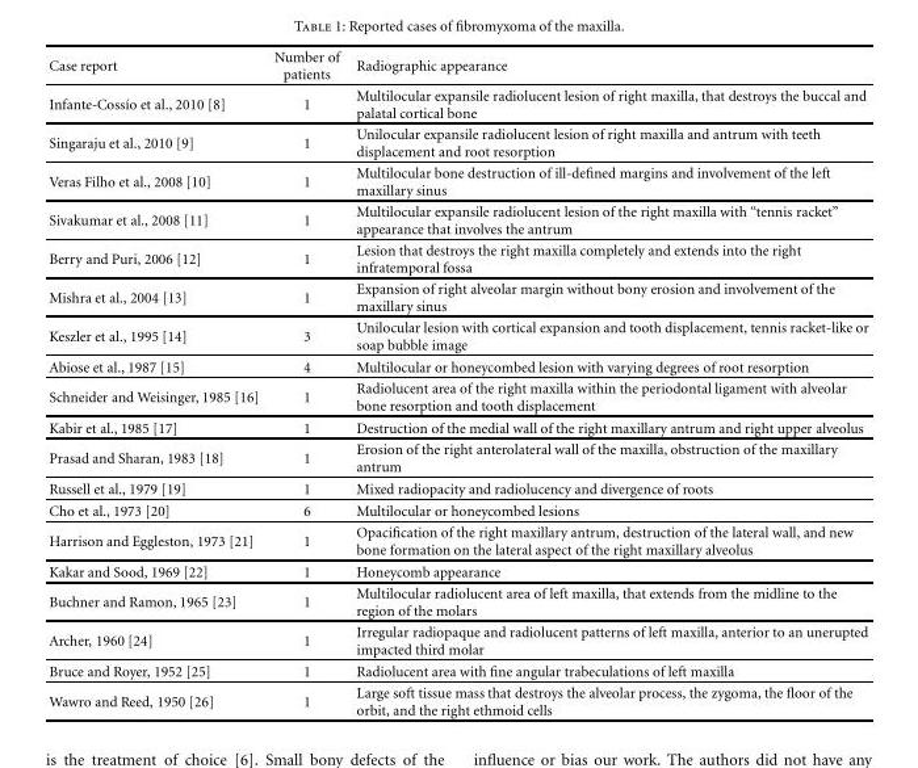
<table><thead><tr><td>Case report</td><td>Number of patients</td><td>Radiographic appearance</td></tr></thead><tbody><tr><td>Infante-Coss´ıo et al., 2010 [8]</td><td>1</td><td>Multilocular expansile radiolucent lesion of right maxilla, that destroys the buccal and palatal cortical bone</td></tr><tr><td>Singaraju et al., 2010 [9]</td><td>1</td><td>Unilocular expansile radiolucent lesion of right maxilla and antrum with teeth displacement and root resorption</td></tr><tr><td>Veras Filho et al., 2008 [10]</td><td>1</td><td>Multilocular bone destruction of ill-defined margins and involvement of the left maxillary sinus</td></tr><tr><td>Sivakumar et al., 2008 [11]</td><td>1</td><td>Multilocular expansile radiolucent lesion of the right maxilla with “tennis racket” appearance that involves the antrum</td></tr><tr><td>Berry and Puri, 2006 [12]</td><td>1</td><td>Lesion that destroys the right maxilla completely and extends into the right infratemporal fossa</td></tr><tr><td>Mishra et al., 2004 [13]</td><td>1</td><td>Expansion of right alveolar margin without bony erosion and involvement of the maxillary sinus</td></tr><tr><td>Keszler et al., 1995 [14]</td><td>3</td><td>Unilocular lesion with cortical expansion and tooth displacement, tennis racket-like or soap bubble image</td></tr><tr><td>Abiose et al., 1987 [15]</td><td>4</td><td>Multilocular or honeycombed lesion with varying degrees of root resorption</td></tr><tr><td>Schneider and Weisinger, 1985 [16]</td><td>1</td><td>Radiolucent area of the right maxilla within the periodontal ligament with alveolar bone resorption and tooth displacement</td></tr><tr><td>Kabir et al., 1985 [17]</td><td>1</td><td>Destruction of the medial wall of the right maxillary antrum and right upper alveolus</td></tr><tr><td>Prasad and Sharan, 1983 [18]</td><td>1</td><td>Erosion of the right anterolateral wall of the maxilla, obstruction of the maxillary antrum</td></tr><tr><td>Russell et al., 1979 [19]</td><td>1</td><td>Mixed radiopacity and radiolucency and divergence of roots</td></tr><tr><td>Cho et al., 1973 [20]</td><td>6</td><td>Multilocular or honeycombed lesions</td></tr><tr><td>Harrison and Eggleston, 1973 [21]</td><td>1</td><td>Opacification of the right maxillary antrum, destruction of the lateral wall, and new bone formation on the lateral aspect of the right maxillary alveolus</td></tr><tr><td>Kakar and Sood, 1969 [22]</td><td>1</td><td>Honeycomb appearance</td></tr><tr><td>Buchner and Ramon, 1965 [23]</td><td>1</td><td>Multilocular radiolucent area of left maxilla, that extends from the midline to the region of the molars</td></tr><tr><td>Archer, 1960 [24]</td><td>1</td><td>Irregular radiopaque and radiolucent patterns of left maxilla, anterior to an unerupted impacted third molar</td></tr><tr><td>Bruce and Royer, 1952 [25]</td><td>1</td><td>Radiolucent area with fine angular trabeculations of left maxilla</td></tr><tr><td>Wawro and Reed, 1950 [26]</td><td>1</td><td>Large soft tissue mass that destroys the alveolar process, the zygoma, the floor of the orbit, and the right ethmoid cells</td></tr></tbody></table>